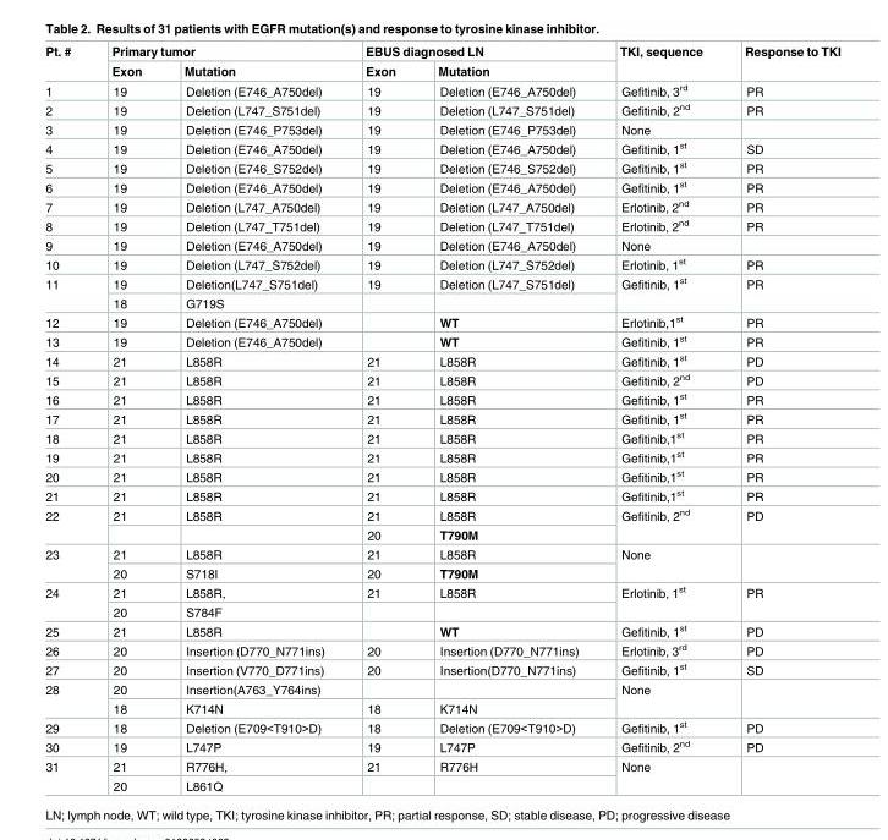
<table><thead><tr><td rowspan="2">Pt. #</td><td colspan="2">Primary tumor</td><td colspan="2">EBUS diagnosed LN</td><td rowspan="2">TKI, sequence</td><td rowspan="2">Response to TKI</td></tr><tr><td>Exon</td><td>Mutation</td><td>Exon</td><td>Mutation</td></tr></thead><tbody><tr><td>1</td><td>19</td><td>Deletion (E746_A750del)</td><td>19</td><td>Deletion (E746_A750del)</td><td>Gefitinib, 3<sup>rd</sup></td><td>PR</td></tr><tr><td>2</td><td>19</td><td>Deletion (L747_S751del)</td><td>19</td><td>Deletion (L747_S751del)</td><td>Gefitinib, 2<sup>nd</sup></td><td>PR</td></tr><tr><td>3</td><td>19</td><td>Deletion (E746_P753del)</td><td>19</td><td>Deletion (E746_P753del)</td><td>None</td><td></td></tr><tr><td>4</td><td>19</td><td>Deletion (E746_A750del)</td><td>19</td><td>Deletion (E746_A750del)</td><td>Gefitinib, 1<sup>st</sup></td><td>SD</td></tr><tr><td>5</td><td>19</td><td>Deletion (E746_S752del)</td><td>19</td><td>Deletion (E746_S752del)</td><td>Gefitinib, 1<sup>st</sup></td><td>PR</td></tr><tr><td>6</td><td>19</td><td>Deletion (E746_A750del)</td><td>19</td><td>Deletion (E746_A750del)</td><td>Gefitinib, 1<sup>st</sup></td><td>PR</td></tr><tr><td>7</td><td>19</td><td>Deletion (L747_A750del)</td><td>19</td><td>Deletion (L747_A750del)</td><td>Erlotinib, 2<sup>nd</sup></td><td>PR</td></tr><tr><td>8</td><td>19</td><td>Deletion (L747_T751del)</td><td>19</td><td>Deletion (L747_T751del)</td><td>Erlotinib, 2<sup>nd</sup></td><td>PR</td></tr><tr><td>9</td><td>19</td><td>Deletion (E746_A750del)</td><td>19</td><td>Deletion (E746_A750del)</td><td>None</td><td></td></tr><tr><td>10</td><td>19</td><td>Deletion (L747_S752del)</td><td>19</td><td>Deletion (L747_S752del)</td><td>Erlotinib, 1<sup>st</sup></td><td>PR</td></tr><tr><td rowspan="2">11</td><td>19</td><td>Deletion(L747_S751del)</td><td>19</td><td>Deletion (L747_S751del)</td><td rowspan="2">Gefitinib, 1<sup>st</sup></td><td rowspan="2">PR</td></tr><tr><td>18</td><td>G719S</td><td></td><td></td></tr><tr><td>12</td><td>19</td><td>Deletion (E746_A750del)</td><td></td><td>WT</td><td>Erlotinib,1<sup>st</sup></td><td>PR</td></tr><tr><td>13</td><td>19</td><td>Deletion (E746_A750del)</td><td></td><td>WT</td><td>Gefitinib, 1<sup>st</sup></td><td>PR</td></tr><tr><td>14</td><td>21</td><td>L858R</td><td>21</td><td>L858R</td><td>Gefitinib, 1<sup>st</sup></td><td>PD</td></tr><tr><td>15</td><td>21</td><td>L858R</td><td>21</td><td>L858R</td><td>Gefitinib, 2<sup>nd</sup></td><td>PD</td></tr><tr><td>16</td><td>21</td><td>L858R</td><td>21</td><td>L858R</td><td>Gefitinib, 1<sup>st</sup></td><td>PR</td></tr><tr><td>17</td><td>21</td><td>L858R</td><td>21</td><td>L858R</td><td>Gefitinib, 1<sup>st</sup></td><td>PR</td></tr><tr><td>18</td><td>21</td><td>L858R</td><td>21</td><td>L858R</td><td>Gefitinib,1<sup>st</sup></td><td>PR</td></tr><tr><td>19</td><td>21</td><td>L858R</td><td>21</td><td>L858R</td><td>Gefitinib,1<sup>st</sup></td><td>PR</td></tr><tr><td>20</td><td>21</td><td>L858R</td><td>21</td><td>L858R</td><td>Gefitinib,1<sup>st</sup></td><td>PR</td></tr><tr><td>21</td><td>21</td><td>L858R</td><td>21</td><td>L858R</td><td>Gefitinib,1<sup>st</sup></td><td>PR</td></tr><tr><td rowspan="2">22</td><td>21</td><td>L858R</td><td>21</td><td>L858R</td><td rowspan="2">Gefitinib, 2<sup>nd</sup></td><td rowspan="2">PD</td></tr><tr><td></td><td></td><td>20</td><td>T790M</td></tr><tr><td rowspan="2">23</td><td>21</td><td>L858R</td><td>21</td><td>L858R</td><td rowspan="2">None</td><td rowspan="2"></td></tr><tr><td>20</td><td>S718I</td><td>20</td><td>T790M</td></tr><tr><td rowspan="2">24</td><td>21</td><td>L858R,</td><td>21</td><td>L858R</td><td rowspan="2">Erlotinib, 1<sup>st</sup></td><td rowspan="2">PR</td></tr><tr><td>20</td><td>S784F</td><td></td><td></td></tr><tr><td>25</td><td>21</td><td>L858R</td><td></td><td>WT</td><td>Gefitinib, 1<sup>st</sup></td><td>PD</td></tr><tr><td>26</td><td>20</td><td>Insertion (D770_N771ins)</td><td>20</td><td>Insertion (D770_N771ins)</td><td>Erlotinib, 3<sup>rd</sup></td><td>PD</td></tr><tr><td>27</td><td>20</td><td>Insertion (V770_D771ins)</td><td>20</td><td>Insertion(D770_N771ins)</td><td>Gefitinib, 1<sup>st</sup></td><td>SD</td></tr><tr><td rowspan="2">28</td><td>20</td><td>Insertion(A763_Y764ins)</td><td></td><td></td><td rowspan="2">None</td><td rowspan="2"></td></tr><tr><td>18</td><td>K714N</td><td>18</td><td>K714N</td></tr><tr><td>29</td><td>18</td><td>Deletion (E709&lt;T910&gt;D)</td><td>18</td><td>Deletion (E709&lt;T910&gt;D)</td><td>Gefitinib, 1<sup>st</sup></td><td>PD</td></tr><tr><td>30</td><td>19</td><td>L747P</td><td>19</td><td>L747P</td><td>Gefitinib, 2<sup>nd</sup></td><td>PD</td></tr><tr><td rowspan="2">31</td><td>21</td><td>R776H,</td><td>21</td><td>R776H</td><td rowspan="2">None</td><td rowspan="2"></td></tr><tr><td>20</td><td>L861Q</td><td></td><td></td></tr></tbody></table>